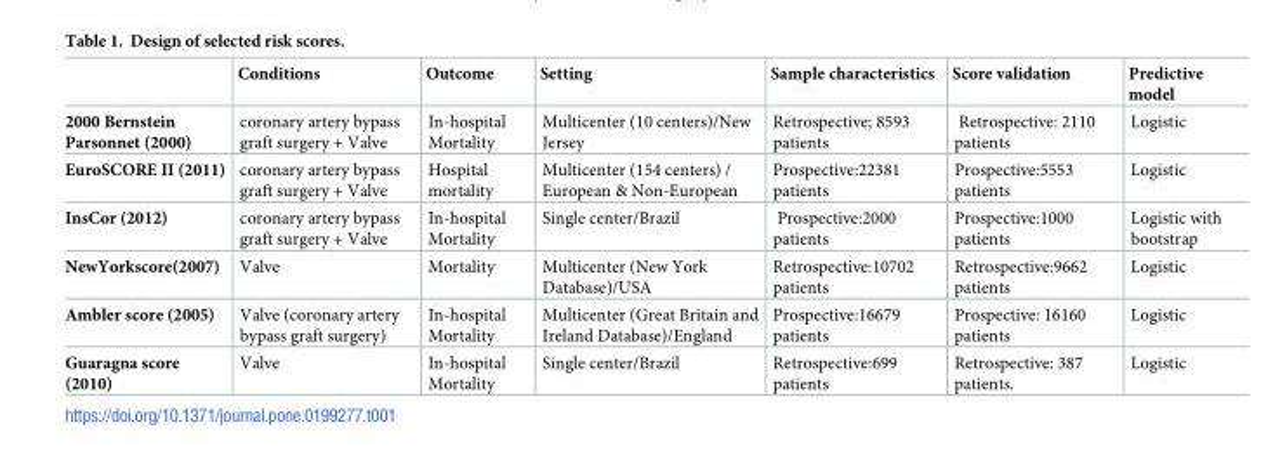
<table><thead><tr><td></td><td>Conditions</td><td>Outcome</td><td>Setting</td><td>Sample characteristics</td><td>Score validation</td><td>Predictive model</td></tr></thead><tbody><tr><td>2000 Bernstein Parsonnet (2000)</td><td>coronary artery bypass graft surgery + Valve</td><td>In-hospital Mortality</td><td>Multicenter (10 centers)/New Jersey</td><td>Retrospective; 8593 patients</td><td>Retrospective: 2110 patients</td><td>Logistic</td></tr><tr><td>EuroSCORE II (2011)</td><td>coronary artery bypass graft surgery + Valve</td><td>Hospital mortality</td><td>Multicenter (154 centers) / European &amp; Non-European</td><td>Prospective:22381 patients</td><td>Prospective:5553 patients</td><td>Logistic</td></tr><tr><td>InsCor (2012)</td><td>coronary artery bypass graft surgery + Valve</td><td>In-hospital Mortality</td><td>Single center/Brazil</td><td>Prospective:2000 patients</td><td>Prospective:1000 patients</td><td>Logistic with bootstrap</td></tr><tr><td>NewYorkscore(2007)</td><td>Valve</td><td>Mortality</td><td>Multicenter (New York Database)/USA</td><td>Retrospective:10702 patients</td><td>Retrospective:9662 patients</td><td>Logistic</td></tr><tr><td>Ambler score (2005)</td><td>Valve (coronary artery bypass graft surgery)</td><td>In-hospital Mortality</td><td>Multicenter (Great Britain and Ireland Database)/England</td><td>Prospective:16679 patients</td><td>Prospective: 16160 patients</td><td>Logistic</td></tr><tr><td>Guaragna score (2010)</td><td>Valve</td><td>In-hospital Mortality</td><td>Single center/Brazil</td><td>Retrospective:699 patients</td><td>Retrospective: 387 patients.</td><td>Logistic</td></tr></tbody></table>